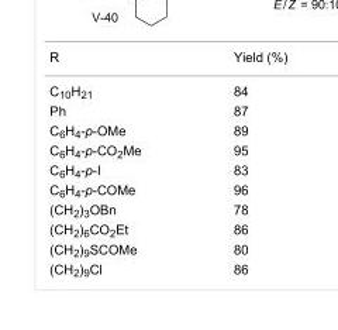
<table><tbody><tr><td>R</td><td>Yield (%)</td></tr><tr><td>C<sub>10</sub>H<sub>21</sub></td><td>84</td></tr><tr><td>Ph</td><td>87</td></tr><tr><td>C<sub>6</sub>H<sub>4</sub>-p-OMe</td><td>89</td></tr><tr><td>C<sub>6</sub>H<sub>4</sub>-p-CO<sub>2</sub>Me</td><td>95</td></tr><tr><td>C<sub>6</sub>H<sub>4</sub>-p-I</td><td>83</td></tr><tr><td>C<sub>6</sub>H<sub>4</sub>-p-COMe</td><td>96</td></tr><tr><td>(CH<sub>2</sub>)<sub>3</sub>OBn</td><td>78</td></tr><tr><td>(CH<sub>2</sub>)<sub>6</sub>CO<sub>2</sub>Et</td><td>86</td></tr><tr><td>(CH<sub>2</sub>)<sub>9</sub>SCOMe</td><td>80</td></tr><tr><td>(CH<sub>2</sub>)<sub>9</sub>Cl</td><td>86</td></tr></tbody></table>